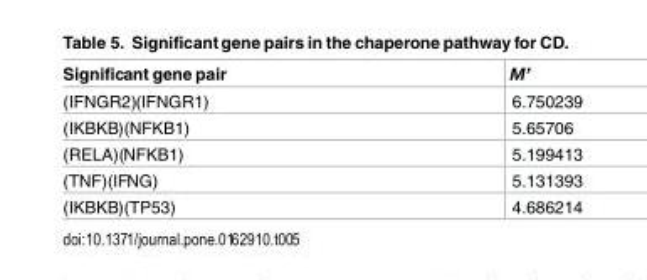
<table><thead><tr><td>Significant gene pair</td><td>M’</td></tr></thead><tbody><tr><td>(IFNGR2)(IFNGR1)</td><td>6.750239</td></tr><tr><td>(IKBKB)(NFKB1)</td><td>5.65706</td></tr><tr><td>(RELA)(NFKB1)</td><td>5.199413</td></tr><tr><td>(TNF)(IFNG)</td><td>5.131393</td></tr><tr><td>(IKBKB)(TP53)</td><td>4.686214</td></tr></tbody></table>